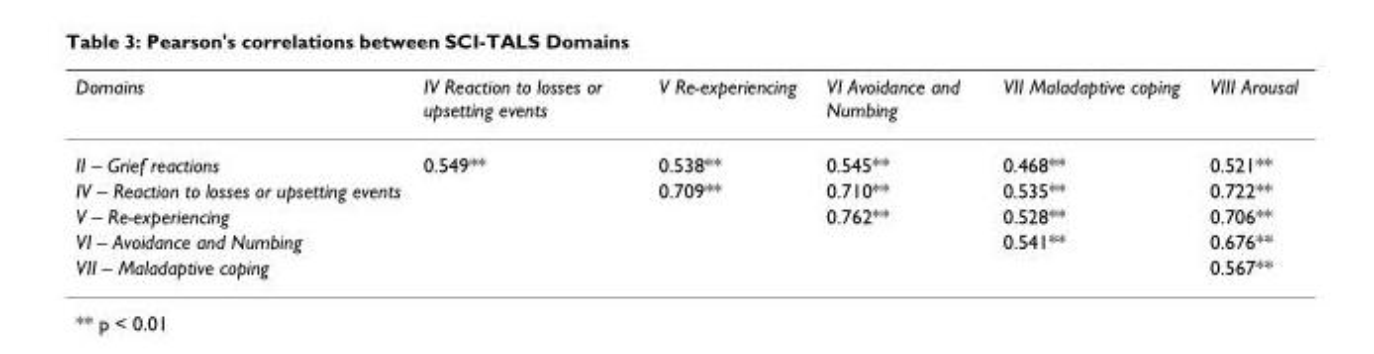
<table><thead><tr><td>Domains</td><td>IV Reaction to losses or upsetting events</td><td>V Re-experiencing</td><td>VI Avoidance and Numbing</td><td>VII Maladaptive coping</td><td>VIII Arousal</td></tr></thead><tbody><tr><td>II – Grief reactions</td><td>0.549**</td><td>0.538**</td><td>0.545**</td><td>0.468**</td><td>0.521**</td></tr><tr><td>IV – Reaction to losses or upsetting events</td><td></td><td>0.709**</td><td>0.710**</td><td>0.535**</td><td>0.722**</td></tr><tr><td>V – Re-experiencing</td><td></td><td></td><td>0.762**</td><td>0.528**</td><td>0.706**</td></tr><tr><td>VI – Avoidance and Numbing</td><td></td><td></td><td></td><td>0.541**</td><td>0.676**</td></tr><tr><td>VII – Maladaptive coping</td><td></td><td></td><td></td><td></td><td>0.567**</td></tr></tbody></table>